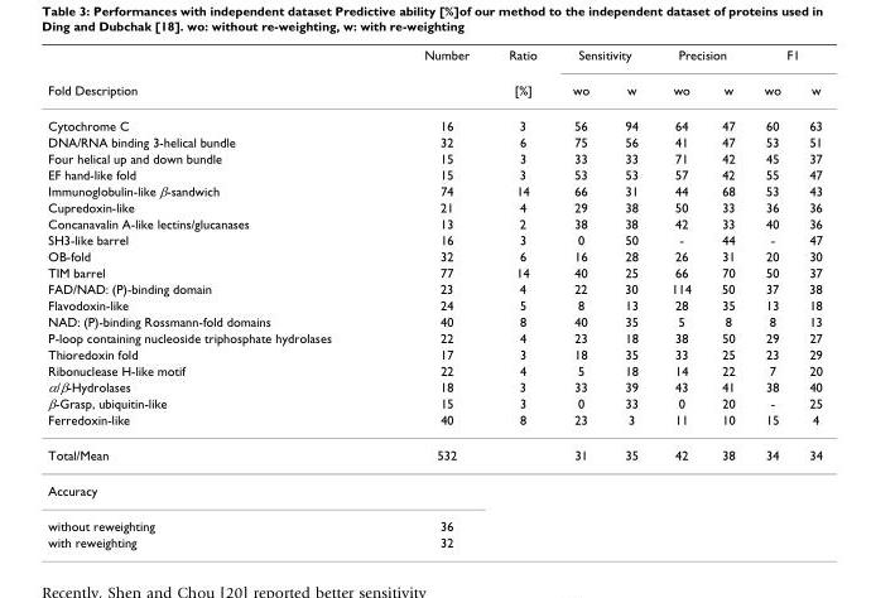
<table><thead><tr><td rowspan="2">Fold Description</td><td rowspan="2">Number</td><td rowspan="2">Ratio [%]</td><td colspan="2">Sensitivity</td><td colspan="2">Precision</td><td colspan="2">F1</td></tr><tr><td>wo</td><td>w</td><td>wo</td><td>w</td><td>wo</td><td>w</td></tr></thead><tbody><tr><td>Cytochrome C</td><td>16</td><td>3</td><td>56</td><td>94</td><td>64</td><td>47</td><td>60</td><td>63</td></tr><tr><td>DNA/RNA binding 3-helical bundle</td><td>32</td><td>6</td><td>75</td><td>56</td><td>41</td><td>47</td><td>53</td><td>51</td></tr><tr><td>Four helical up and down bundle</td><td>15</td><td>3</td><td>33</td><td>33</td><td>71</td><td>42</td><td>45</td><td>37</td></tr><tr><td>EF hand-like fold</td><td>15</td><td>3</td><td>53</td><td>53</td><td>57</td><td>42</td><td>55</td><td>47</td></tr><tr><td>Immunoglobulin-like β-sandwich</td><td>74</td><td>14</td><td>66</td><td>31</td><td>44</td><td>68</td><td>53</td><td>43</td></tr><tr><td>Cupredoxin-like</td><td>21</td><td>4</td><td>29</td><td>38</td><td>50</td><td>33</td><td>36</td><td>36</td></tr><tr><td>Concanavalin A-like lectins/glucanases</td><td>13</td><td>2</td><td>38</td><td>38</td><td>42</td><td>33</td><td>40</td><td>36</td></tr><tr><td>SH3-like barrel</td><td>16</td><td>3</td><td>0</td><td>50</td><td>-</td><td>44</td><td>-</td><td>47</td></tr><tr><td>OB-fold</td><td>32</td><td>6</td><td>16</td><td>28</td><td>26</td><td>31</td><td>20</td><td>30</td></tr><tr><td>TIM barrel</td><td>77</td><td>14</td><td>40</td><td>25</td><td>66</td><td>70</td><td>50</td><td>37</td></tr><tr><td>FAD/NAD: (P)-binding domain</td><td>23</td><td>4</td><td>22</td><td>30</td><td>114</td><td>50</td><td>37</td><td>38</td></tr><tr><td>Flavodoxin-like</td><td>24</td><td>5</td><td>8</td><td>13</td><td>28</td><td>35</td><td>13</td><td>18</td></tr><tr><td>NAD: (P)-binding Rossmann-fold domains</td><td>40</td><td>8</td><td>40</td><td>35</td><td>5</td><td>8</td><td>8</td><td>13</td></tr><tr><td>P-loop containing nucleoside triphosphate hydrolases</td><td>22</td><td>4</td><td>23</td><td>18</td><td>38</td><td>50</td><td>29</td><td>27</td></tr><tr><td>Thioredoxin fold</td><td>17</td><td>3</td><td>18</td><td>35</td><td>33</td><td>25</td><td>23</td><td>29</td></tr><tr><td>Ribonuclease H-like motif</td><td>22</td><td>4</td><td>5</td><td>18</td><td>14</td><td>22</td><td>7</td><td>20</td></tr><tr><td>α/β-Hydrolases</td><td>18</td><td>3</td><td>33</td><td>39</td><td>43</td><td>41</td><td>38</td><td>40</td></tr><tr><td>β-Grasp, ubiquitin-like</td><td>15</td><td>3</td><td>0</td><td>33</td><td>0</td><td>20</td><td>-</td><td>25</td></tr><tr><td>Ferredoxin-like</td><td>40</td><td>8</td><td>23</td><td>3</td><td>11</td><td>10</td><td>15</td><td>4</td></tr><tr><td>Total/Mean</td><td>532</td><td></td><td>31</td><td>35</td><td>42</td><td>38</td><td>34</td><td>34</td></tr><tr><td colspan="9">Accuracy</td></tr><tr><td>without reweighting</td><td>36</td><td></td><td></td><td></td><td></td><td></td><td></td><td></td></tr><tr><td>with reweighting</td><td>32</td><td></td><td></td><td></td><td></td><td></td><td></td><td></td></tr></tbody></table>